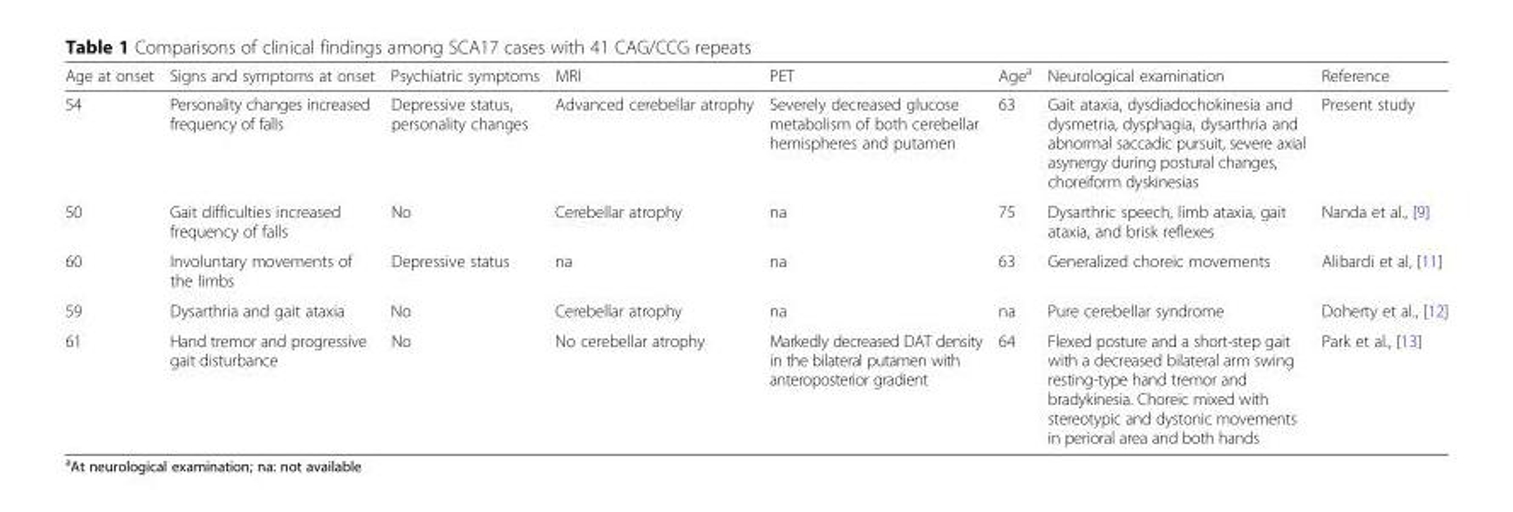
<table><thead><tr><td>Age at onset</td><td>Signs and symptoms at onset</td><td>Psychiatric symptoms</td><td>MRI</td><td>PET</td><td>Age<sup>a</sup></td><td>Neurological examination</td><td>Reference</td></tr></thead><tbody><tr><td>54</td><td>Personality changes increased frequency of falls</td><td>Depressive status, personality changes</td><td>Advanced cerebellar atrophy</td><td>Severely decreased glucose metabolism of both cerebellar hemispheres and putamen</td><td>63</td><td>Gait ataxia, dysdiadochokinesia and dysmetria, dysphagia, dysarthria and abnormal saccadic pursuit, severe axial asynergy during postural changes, choreiform dyskinesias</td><td>Present study</td></tr><tr><td>50</td><td>Gait difficulties increased frequency of falls</td><td>No</td><td>Cerebellar atrophy</td><td>na</td><td>75</td><td>Dysarthric speech, limb ataxia, gait ataxia, and brisk reflexes</td><td>Nanda et al., [9]</td></tr><tr><td>60</td><td>Involuntary movements of the limbs</td><td>Depressive status</td><td>na</td><td>na</td><td>63</td><td>Generalized choreic movements</td><td>Alibardi et al, [11]</td></tr><tr><td>59</td><td>Dysarthria and gait ataxia</td><td>No</td><td>Cerebellar atrophy</td><td>na</td><td>na</td><td>Pure cerebellar syndrome</td><td>Doherty et al., [12]</td></tr><tr><td>61</td><td>Hand tremor and progressive gait disturbance</td><td>No</td><td>No cerebellar atrophy</td><td>Markedly decreased DAT density in the bilateral putamen with anteroposterior gradient</td><td>64</td><td>Flexed posture and a short-step gait with a decreased bilateral arm swing resting-type hand tremor and bradykinesia. Choreic mixed with stereotypic and dystonic movements in perioral area and both hands</td><td>Park et al., [13]</td></tr></tbody></table>